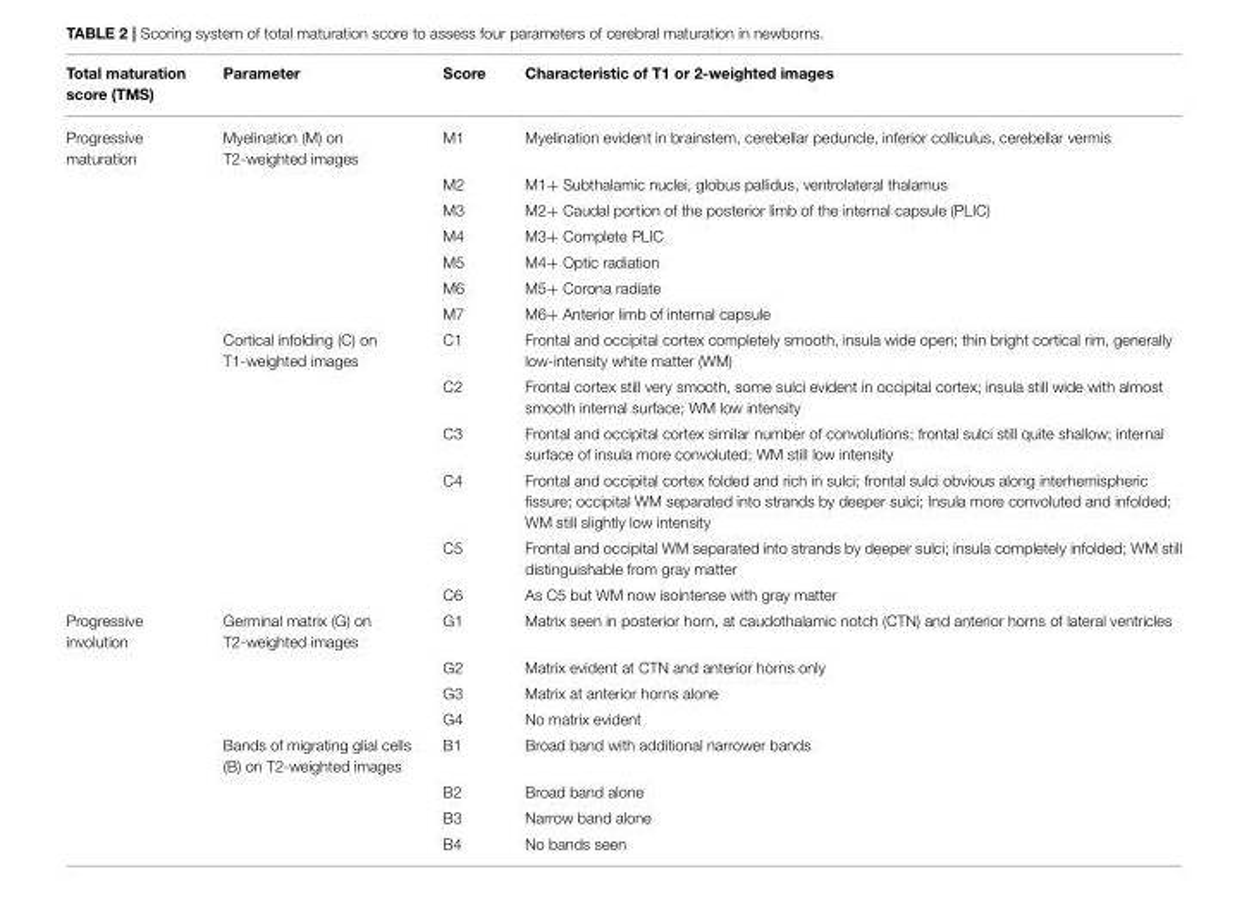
<table><thead><tr><td>Total maturation score (TMS)</td><td>Parameter</td><td>Score</td><td>Characteristic of T1 or 2-weighted images</td></tr></thead><tbody><tr><td rowspan="13">Progressive maturation</td><td>Myelination (M) on T2-weighted images</td><td>M1</td><td>Myelination evident in brainstem, cerebellar peduncle, inferior colliculus, cerebellar vermis</td></tr><tr><td></td><td>M2</td><td>M1+ Subthalamic nuclei, globus pallidus, ventrolateral thalamus</td></tr><tr><td></td><td>M3</td><td>M2+ Caudal portion of the posterior limb of the internal capsule (PLIC)</td></tr><tr><td></td><td>M4</td><td>M3+ Complete PLIC</td></tr><tr><td></td><td>M5</td><td>M4+ Optic radiation</td></tr><tr><td></td><td>M6</td><td>M5+ Corona radiate</td></tr><tr><td></td><td>M7</td><td>M6+ Anterior limb of internal capsule</td></tr><tr><td>Cortical infolding (C) on T1-weighted images</td><td>C1</td><td>Frontal and occipital cortex completely smooth, insula wide open; thin bright cortical rim, generally low-intensity white matter (WM)</td></tr><tr><td></td><td>C2</td><td>Frontal cortex still very smooth, some sulci evident in occipital cortex; insula still wide with almost smooth internal surface; WM low intensity</td></tr><tr><td></td><td>C3</td><td>Frontal and occipital cortex similar number of convolutions; frontal sulci still quite shallow; internal surface of insula more convoluted; WM still low intensity</td></tr><tr><td></td><td>C4</td><td>Frontal and occipital cortex folded and rich in sulci; frontal sulci obvious along interhemispheric fissure; occipital WM separated into strands by deeper sulci; Insula more convoluted and infolded; WM still slightly low intensity</td></tr><tr><td></td><td>C5</td><td>Frontal and occipital WM separated into strands by deeper sulci; insula completely infolded; WM still distinguishable from gray matter</td></tr><tr><td></td><td>C6</td><td>As C5 but WM now isointense with gray matter</td></tr><tr><td rowspan="8">Progressive involution</td><td>Germinal matrix (G) on T2-weighted images</td><td>G1</td><td>Matrix seen in posterior horn, at caudothalamic notch (CTN) and anterior horns of lateral ventricles</td></tr><tr><td></td><td>G2</td><td>Matrix evident at CTN and anterior horns only</td></tr><tr><td></td><td>G3</td><td>Matrix at anterior horns alone</td></tr><tr><td></td><td>G4</td><td>No matrix evident</td></tr><tr><td>Bands of migrating glial cells (B) on T2-weighted images</td><td>B1</td><td>Broad band with additional narrower bands</td></tr><tr><td></td><td>B2</td><td>Broad band alone</td></tr><tr><td></td><td>B3</td><td>Narrow band alone</td></tr><tr><td></td><td>B4</td><td>No bands seen</td></tr></tbody></table>